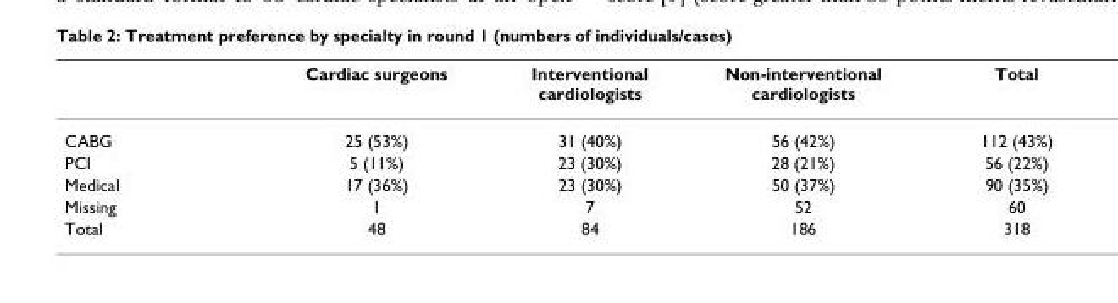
<table><thead><tr><td></td><td>Cardiac surgeons</td><td>Interventional cardiologists</td><td>Non-interventional cardiologists</td><td>Total</td></tr></thead><tbody><tr><td>CABG</td><td>25 (53%)</td><td>31 (40%)</td><td>56 (42%)</td><td>112 (43%)</td></tr><tr><td>PCI</td><td>5 (11%)</td><td>23 (30%)</td><td>28 (21%)</td><td>56 (22%)</td></tr><tr><td>Medical</td><td>17 (36%)</td><td>23 (30%)</td><td>50 (37%)</td><td>90 (35%)</td></tr><tr><td>Missing</td><td>1</td><td>7</td><td>52</td><td>60</td></tr><tr><td>Total</td><td>48</td><td>84</td><td>186</td><td>318</td></tr></tbody></table>